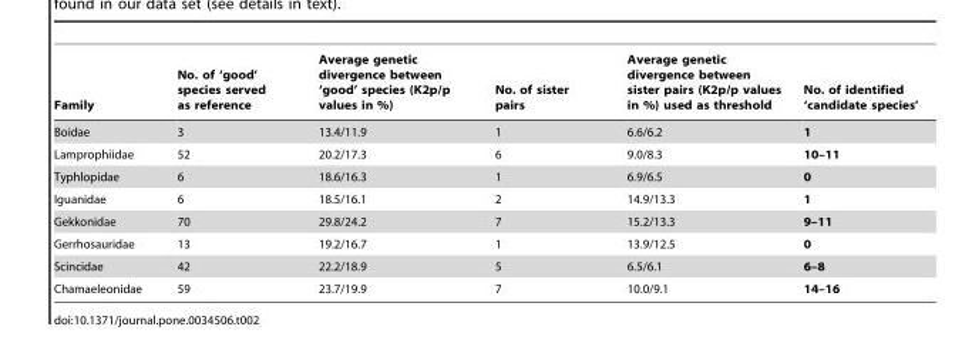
<table><thead><tr><td>Family</td><td>No. of ‘good’ species served as reference</td><td>Average genetic divergence between ‘good’ species (K2p/p values in %)</td><td>No. of sister pairs</td><td>Average genetic divergence between sister pairs (K2p/p values in %) used as threshold</td><td>No. of identified ‘candidate species’</td></tr></thead><tbody><tr><td>Boidae</td><td>3</td><td>13.4/11.9</td><td>1</td><td>6.6/6.2</td><td>1</td></tr><tr><td>Lamprophiidae</td><td>52</td><td>20.2/17.3</td><td>6</td><td>9.0/8.3</td><td>10–11</td></tr><tr><td>Typhlopidae</td><td>6</td><td>18.6/16.3</td><td>1</td><td>6.9/6.5</td><td>0</td></tr><tr><td>Iguanidae</td><td>6</td><td>18.5/16.1</td><td>2</td><td>14.9/13.3</td><td>1</td></tr><tr><td>Gekkonidae</td><td>70</td><td>29.8/24.2</td><td>7</td><td>15.2/13.3</td><td>9–11</td></tr><tr><td>Gerrhosauridae</td><td>13</td><td>19.2/16.7</td><td>1</td><td>13.9/12.5</td><td>0</td></tr><tr><td>Scincidae</td><td>42</td><td>22.2/18.9</td><td>5</td><td>6.5/6.1</td><td>6–8</td></tr><tr><td>Chamaeleonidae</td><td>59</td><td>23.7/19.9</td><td>7</td><td>10.0/9.1</td><td>14–16</td></tr></tbody></table>